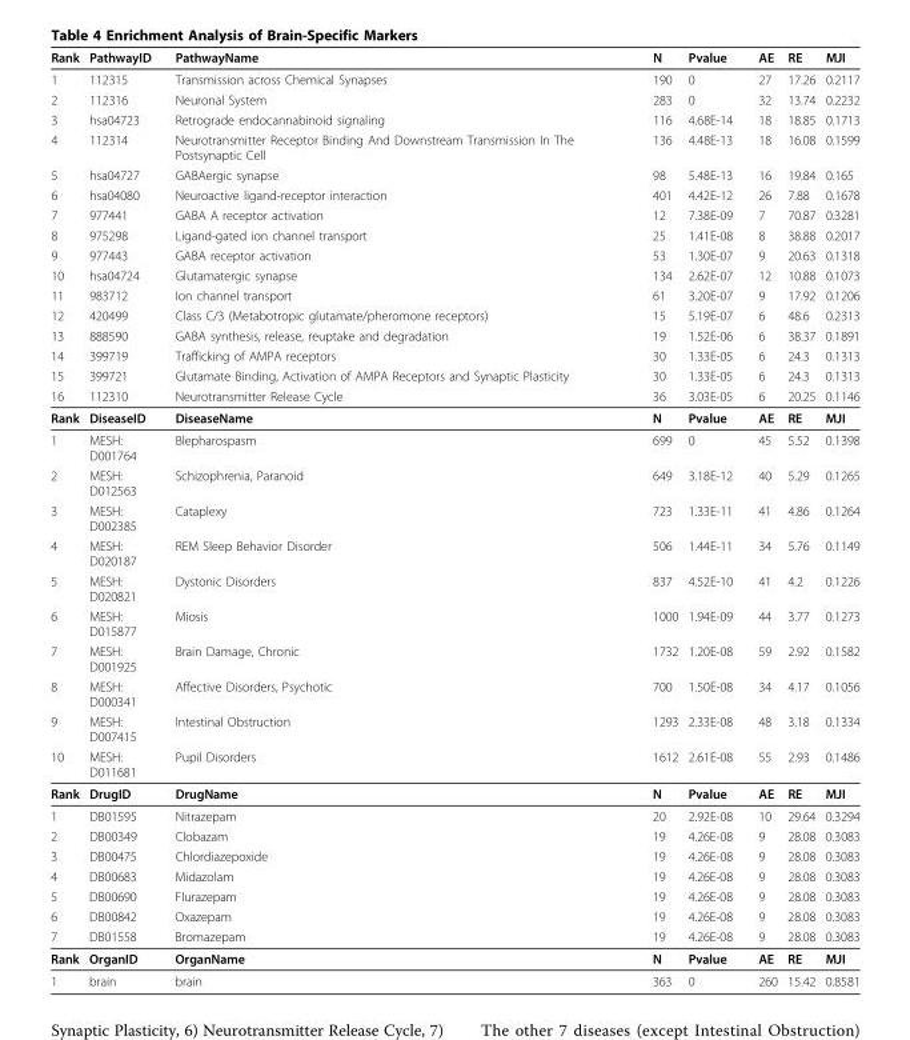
<table><thead><tr><td>Rank</td><td>PathwayID</td><td>PathwayName</td><td>N</td><td>Pvalue</td><td>AE</td><td>RE</td><td>MJI</td></tr></thead><tbody><tr><td>1</td><td>112315</td><td>Transmission across Chemical Synapses</td><td>190</td><td>0</td><td>27</td><td>17.26</td><td>0.2117</td></tr><tr><td>2</td><td>112316</td><td>Neuronal System</td><td>283</td><td>0</td><td>32</td><td>13.74</td><td>0.2232</td></tr><tr><td>3</td><td>hsa04723</td><td>Retrograde endocannabinoid signaling</td><td>116</td><td>4.68E-14</td><td>18</td><td>18.85</td><td>0.1713</td></tr><tr><td>4</td><td>112314</td><td>Neurotransmitter Receptor Binding And Downstream Transmission In The Postsynaptic Cell</td><td>136</td><td>4.48E-13</td><td>18</td><td>16.08</td><td>0.1599</td></tr><tr><td>5</td><td>hsa04727</td><td>GABAergic synapse</td><td>98</td><td>5.48E-13</td><td>16</td><td>19.84</td><td>0.165</td></tr><tr><td>6</td><td>hsa04080</td><td>Neuroactive ligand-receptor interaction</td><td>401</td><td>4.42E-12</td><td>26</td><td>7.88</td><td>0.1678</td></tr><tr><td>7</td><td>977441</td><td>GABA A receptor activation</td><td>12</td><td>7.38E-09</td><td>7</td><td>70.87</td><td>0.3281</td></tr><tr><td>8</td><td>975298</td><td>Ligand-gated ion channel transport</td><td>25</td><td>1.41E-08</td><td>8</td><td>38.88</td><td>0.2017</td></tr><tr><td>9</td><td>977443</td><td>GABA receptor activation</td><td>53</td><td>1.30E-07</td><td>9</td><td>20.63</td><td>0.1318</td></tr><tr><td>10</td><td>hsa04724</td><td>Glutamatergic synapse</td><td>134</td><td>2.62E-07</td><td>12</td><td>10.88</td><td>0.1073</td></tr><tr><td>11</td><td>983712</td><td>Ion channel transport</td><td>61</td><td>3.20E-07</td><td>9</td><td>17.92</td><td>0.1206</td></tr><tr><td>12</td><td>420499</td><td>Class C/3 (Metabotropic glutamate/pheromone receptors)</td><td>15</td><td>5.19E-07</td><td>6</td><td>48.6</td><td>0.2313</td></tr><tr><td>13</td><td>888590</td><td>GABA synthesis, release, reuptake and degradation</td><td>19</td><td>1.52E-06</td><td>6</td><td>38.37</td><td>0.1891</td></tr><tr><td>14</td><td>399719</td><td>Trafficking of AMPA receptors</td><td>30</td><td>1.33E-05</td><td>6</td><td>24.3</td><td>0.1313</td></tr><tr><td>15</td><td>399721</td><td>Glutamate Binding, Activation of AMPA Receptors and Synaptic Plasticity</td><td>30</td><td>1.33E-05</td><td>6</td><td>24.3</td><td>0.1313</td></tr><tr><td>16</td><td>112310</td><td>Neurotransmitter Release Cycle</td><td>36</td><td>3.03E-05</td><td>6</td><td>20.25</td><td>0.1146</td></tr><tr><td>Rank</td><td>DiseaseID</td><td>DiseaseName</td><td>N</td><td>Pvalue</td><td>AE</td><td>RE</td><td>MJI</td></tr><tr><td>1</td><td>MESH: D001764</td><td>Blepharospasm</td><td>699</td><td>0</td><td>45</td><td>5.52</td><td>0.1398</td></tr><tr><td>2</td><td>MESH: D012563</td><td>Schizophrenia, Paranoid</td><td>649</td><td>3.18E-12</td><td>40</td><td>5.29</td><td>0.1265</td></tr><tr><td>3</td><td>MESH: D002385</td><td>Cataplexy</td><td>723</td><td>1.33E-11</td><td>41</td><td>4.86</td><td>0.1264</td></tr><tr><td>4</td><td>MESH: D020187</td><td>REM Sleep Behavior Disorder</td><td>506</td><td>1.44E-11</td><td>34</td><td>5.76</td><td>0.1149</td></tr><tr><td>5</td><td>MESH: D020821</td><td>Dystonic Disorders</td><td>837</td><td>4.52E-10</td><td>41</td><td>4.2</td><td>0.1226</td></tr><tr><td>6</td><td>MESH: D015877</td><td>Miosis</td><td>1000</td><td>1.94E-09</td><td>44</td><td>3.77</td><td>0.1273</td></tr><tr><td>7</td><td>MESH: D001925</td><td>Brain Damage, Chronic</td><td>1732</td><td>1.20E-08</td><td>59</td><td>2.92</td><td>0.1582</td></tr><tr><td>8</td><td>MESH: D000341</td><td>Affective Disorders, Psychotic</td><td>700</td><td>1.50E-08</td><td>34</td><td>4.17</td><td>0.1056</td></tr><tr><td>9</td><td>MESH: D007415</td><td>Intestinal Obstruction</td><td>1293</td><td>2.33E-08</td><td>48</td><td>3.18</td><td>0.1334</td></tr><tr><td>10</td><td>MESH: D011681</td><td>Pupil Disorders</td><td>1612</td><td>2.61E-08</td><td>55</td><td>2.93</td><td>0.1486</td></tr><tr><td>Rank</td><td>DrugID</td><td>DrugName</td><td>N</td><td>Pvalue</td><td>AE</td><td>RE</td><td>MJI</td></tr><tr><td>1</td><td>DB01595</td><td>Nitrazepam</td><td>20</td><td>2.92E-08</td><td>10</td><td>29.64</td><td>0.3294</td></tr><tr><td>2</td><td>DB00349</td><td>Clobazam</td><td>19</td><td>4.26E-08</td><td>9</td><td>28.08</td><td>0.3083</td></tr><tr><td>3</td><td>DB00475</td><td>Chlordiazepoxide</td><td>19</td><td>4.26E-08</td><td>9</td><td>28.08</td><td>0.3083</td></tr><tr><td>4</td><td>DB00683</td><td>Midazolam</td><td>19</td><td>4.26E-08</td><td>9</td><td>28.08</td><td>0.3083</td></tr><tr><td>5</td><td>DB00690</td><td>Flurazepam</td><td>19</td><td>4.26E-08</td><td>9</td><td>28.08</td><td>0.3083</td></tr><tr><td>6</td><td>DB00842</td><td>Oxazepam</td><td>19</td><td>4.26E-08</td><td>9</td><td>28.08</td><td>0.3083</td></tr><tr><td>7</td><td>DB01558</td><td>Bromazepam</td><td>19</td><td>4.26E-08</td><td>9</td><td>28.08</td><td>0.3083</td></tr><tr><td>Rank</td><td>OrganID</td><td>OrganName</td><td>N</td><td>Pvalue</td><td>AE</td><td>RE</td><td>MJI</td></tr><tr><td>1</td><td>brain</td><td>brain</td><td>363</td><td>0</td><td>260</td><td>15.42</td><td>0.8581</td></tr></tbody></table>